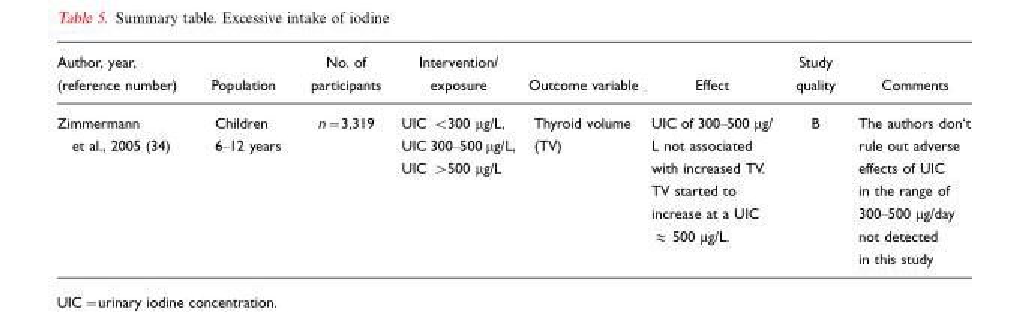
<table><thead><tr><td>Author, year, (reference number)</td><td>Population</td><td>No. of participants</td><td>Intervention/ exposure</td><td>Outcome variable</td><td>Effect</td><td>Study quality</td><td>Comments</td></tr></thead><tbody><tr><td>Zimmermann et al., 2005 (34)</td><td>Children 6–12 years</td><td>n=3,319</td><td>UIC &lt;300 µg/L, UIC 300–500 µg/L, UIC &gt;500 µg/L</td><td>Thyroid volume (TV)</td><td>UIC of 300–500 µg/ L not associated with increased TV. TV started to increase at a UIC ≈ 500 µg/L.</td><td>B</td><td>The authors don‘t rule out adverse effects of UIC in the range of 300–500 µg/day not detected in this study</td></tr></tbody></table>